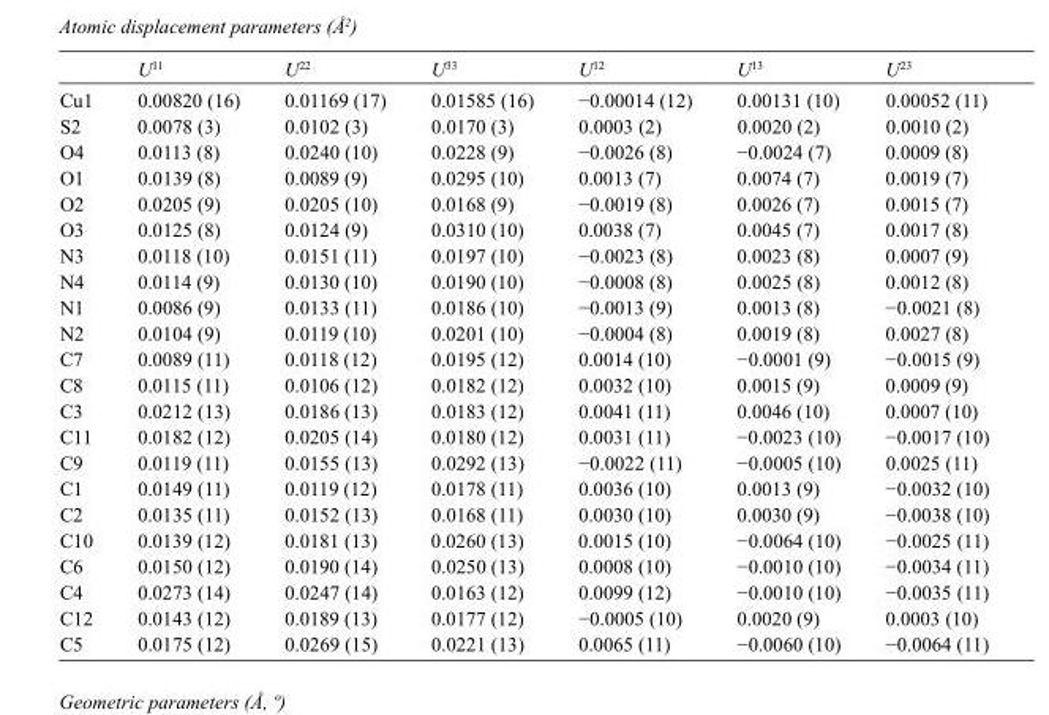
<table><thead><tr><td></td><td>U<sup>11</sup></td><td>U<sup>22</sup></td><td>U<sup>33</sup></td><td>U<sup>12</sup></td><td>U<sup>13</sup></td><td>U<sup>23</sup></td></tr></thead><tbody><tr><td>Cu1</td><td>0.00820 (16)</td><td>0.01169 (17)</td><td>0.01585 (16)</td><td>−0.00014 (12)</td><td>0.00131 (10)</td><td>0.00052 (11)</td></tr><tr><td>S2</td><td>0.0078 (3)</td><td>0.0102 (3)</td><td>0.0170 (3)</td><td>0.0003 (2)</td><td>0.0020 (2)</td><td>0.0010 (2)</td></tr><tr><td>O4</td><td>0.0113 (8)</td><td>0.0240 (10)</td><td>0.0228 (9)</td><td>−0.0026 (8)</td><td>−0.0024 (7)</td><td>0.0009 (8)</td></tr><tr><td>O1</td><td>0.0139 (8)</td><td>0.0089 (9)</td><td>0.0295 (10)</td><td>0.0013 (7)</td><td>0.0074 (7)</td><td>0.0019 (7)</td></tr><tr><td>O2</td><td>0.0205 (9)</td><td>0.0205 (10)</td><td>0.0168 (9)</td><td>−0.0019 (8)</td><td>0.0026 (7)</td><td>0.0015 (7)</td></tr><tr><td>O3</td><td>0.0125 (8)</td><td>0.0124 (9)</td><td>0.0310 (10)</td><td>0.0038 (7)</td><td>0.0045 (7)</td><td>0.0017 (8)</td></tr><tr><td>N3</td><td>0.0118 (10)</td><td>0.0151 (11)</td><td>0.0197 (10)</td><td>−0.0023 (8)</td><td>0.0023 (8)</td><td>0.0007 (9)</td></tr><tr><td>N4</td><td>0.0114 (9)</td><td>0.0130 (10)</td><td>0.0190 (10)</td><td>−0.0008 (8)</td><td>0.0025 (8)</td><td>0.0012 (8)</td></tr><tr><td>N1</td><td>0.0086 (9)</td><td>0.0133 (11)</td><td>0.0186 (10)</td><td>−0.0013 (9)</td><td>0.0013 (8)</td><td>−0.0021 (8)</td></tr><tr><td>N2</td><td>0.0104 (9)</td><td>0.0119 (10)</td><td>0.0201 (10)</td><td>−0.0004 (8)</td><td>0.0019 (8)</td><td>0.0027 (8)</td></tr><tr><td>C7</td><td>0.0089 (11)</td><td>0.0118 (12)</td><td>0.0195 (12)</td><td>0.0014 (10)</td><td>−0.0001 (9)</td><td>−0.0015 (9)</td></tr><tr><td>C8</td><td>0.0115 (11)</td><td>0.0106 (12)</td><td>0.0182 (12)</td><td>0.0032 (10)</td><td>0.0015 (9)</td><td>0.0009 (9)</td></tr><tr><td>C3</td><td>0.0212 (13)</td><td>0.0186 (13)</td><td>0.0183 (12)</td><td>0.0041 (11)</td><td>0.0046 (10)</td><td>0.0007 (10)</td></tr><tr><td>C11</td><td>0.0182 (12)</td><td>0.0205 (14)</td><td>0.0180 (12)</td><td>0.0031 (11)</td><td>−0.0023 (10)</td><td>−0.0017 (10)</td></tr><tr><td>C9</td><td>0.0119 (11)</td><td>0.0155 (13)</td><td>0.0292 (13)</td><td>−0.0022 (11)</td><td>−0.0005 (10)</td><td>0.0025 (11)</td></tr><tr><td>C1</td><td>0.0149 (11)</td><td>0.0119 (12)</td><td>0.0178 (11)</td><td>0.0036 (10)</td><td>0.0013 (9)</td><td>−0.0032 (10)</td></tr><tr><td>C2</td><td>0.0135 (11)</td><td>0.0152 (13)</td><td>0.0168 (11)</td><td>0.0030 (10)</td><td>0.0030 (9)</td><td>−0.0038 (10)</td></tr><tr><td>C10</td><td>0.0139 (12)</td><td>0.0181 (13)</td><td>0.0260 (13)</td><td>0.0015 (10)</td><td>−0.0064 (10)</td><td>−0.0025 (11)</td></tr><tr><td>C6</td><td>0.0150 (12)</td><td>0.0190 (14)</td><td>0.0250 (13)</td><td>0.0008 (10)</td><td>−0.0010 (10)</td><td>−0.0034 (11)</td></tr><tr><td>C4</td><td>0.0273 (14)</td><td>0.0247 (14)</td><td>0.0163 (12)</td><td>0.0099 (12)</td><td>−0.0010 (10)</td><td>−0.0035 (11)</td></tr><tr><td>C12</td><td>0.0143 (12)</td><td>0.0189 (13)</td><td>0.0177 (12)</td><td>−0.0005 (10)</td><td>0.0020 (9)</td><td>0.0003 (10)</td></tr><tr><td>C5</td><td>0.0175 (12)</td><td>0.0269 (15)</td><td>0.0221 (13)</td><td>0.0065 (11)</td><td>−0.0060 (10)</td><td>−0.0064 (11)</td></tr></tbody></table>